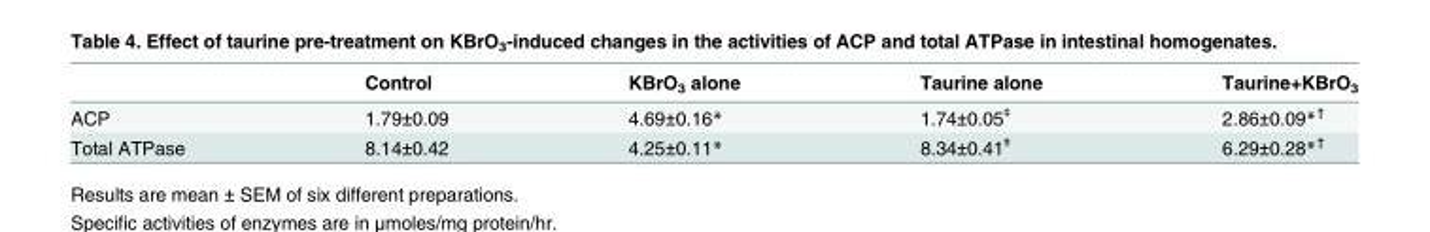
<table><thead><tr><td></td><td>Control</td><td>KBrO<sub>3</sub> alone</td><td>Taurine alone</td><td>Taurine+KBrO<sub>3</sub></td></tr></thead><tbody><tr><td>ACP</td><td>1.79±0.09</td><td>4.69±0.16*</td><td>1.74±0.05<sup>ǂ</sup></td><td>2.86±0.09*<sup>†</sup></td></tr><tr><td>Total ATPase</td><td>8.14±0.42</td><td>4.25±0.11*</td><td>8.34±0.41<sup>ǂ</sup></td><td>6.29±0.28*<sup>†</sup></td></tr></tbody></table>